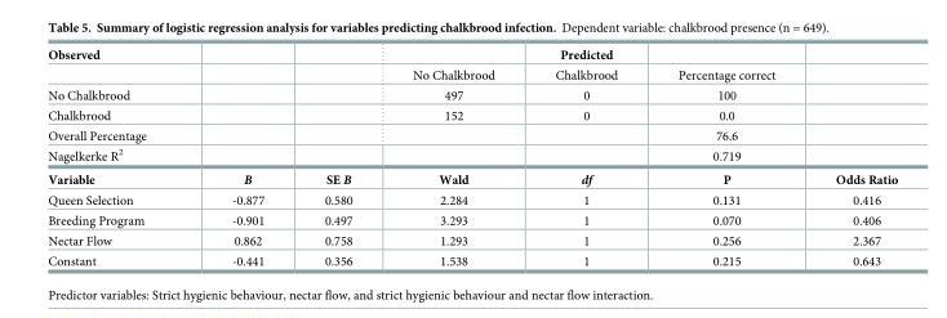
<table><tbody><tr><td rowspan="2">Observed</td><td></td><td></td><td></td><td>Predicted</td><td></td><td></td></tr><tr><td></td><td></td><td>No Chalkbrood</td><td>Chalkbrood</td><td>Percentage correct</td><td></td></tr><tr><td>No Chalkbrood</td><td></td><td></td><td>497</td><td>0</td><td>100</td><td></td></tr><tr><td>Chalkbrood</td><td></td><td></td><td>152</td><td>0</td><td>0.0</td><td></td></tr><tr><td>Overall Percentage</td><td></td><td></td><td></td><td></td><td>76.6</td><td></td></tr><tr><td>Nagelkerke R<sup>2</sup></td><td></td><td></td><td></td><td></td><td>0.719</td><td></td></tr><tr><td>Variable</td><td>B</td><td>SE B</td><td>Wald</td><td>df</td><td>P</td><td>Odds Ratio</td></tr><tr><td>Queen Selection</td><td>-0.877</td><td>0.580</td><td>2.284</td><td>1</td><td>0.131</td><td>0.416</td></tr><tr><td>Breeding Program</td><td>-0.901</td><td>0.497</td><td>3.293</td><td>1</td><td>0.070</td><td>0.406</td></tr><tr><td>Nectar Flow</td><td>0.862</td><td>0.758</td><td>1.293</td><td>1</td><td>0.256</td><td>2.367</td></tr><tr><td>Constant</td><td>-0.441</td><td>0.356</td><td>1.538</td><td>1</td><td>0.215</td><td>0.643</td></tr></tbody></table>